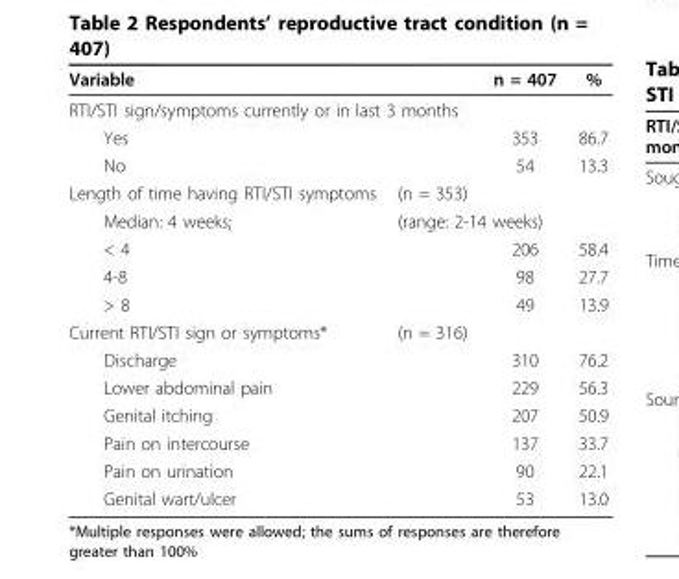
<table><thead><tr><td>Variable</td><td></td><td>n = 407</td><td>%</td></tr></thead><tbody><tr><td colspan="4">RTI/STI sign/symptoms currently or in last 3 months</td></tr><tr><td>Yes</td><td></td><td>353</td><td>86.7</td></tr><tr><td>No</td><td></td><td>54</td><td>13.3</td></tr><tr><td>Length of time having RTI/STI symptoms</td><td>(n = 353)</td><td></td><td></td></tr><tr><td>Median: 4 weeks;</td><td colspan="2">(range: 2-14 weeks)</td><td></td></tr><tr><td>&lt; 4</td><td></td><td>206</td><td>58.4</td></tr><tr><td>4-8</td><td></td><td>98</td><td>27.7</td></tr><tr><td>&gt; 8</td><td></td><td>49</td><td>13.9</td></tr><tr><td>Current RTI/STI sign or symptoms*</td><td>(n = 316)</td><td></td><td></td></tr><tr><td>Discharge</td><td></td><td>310</td><td>76.2</td></tr><tr><td>Lower abdominal pain</td><td></td><td>229</td><td>56.3</td></tr><tr><td>Genital itching</td><td></td><td>207</td><td>50.9</td></tr><tr><td>Pain on intercourse</td><td></td><td>137</td><td>33.7</td></tr><tr><td>Pain on urination</td><td></td><td>90</td><td>22.1</td></tr><tr><td>Genital wart/ulcer</td><td></td><td>53</td><td>13.0</td></tr></tbody></table>